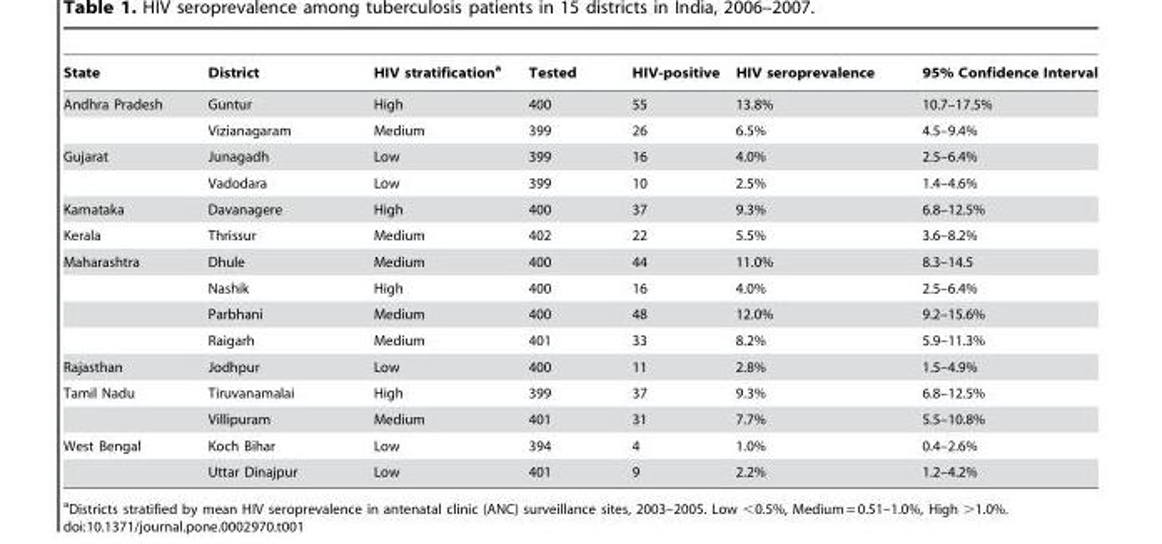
<table><thead><tr><td>State</td><td>District</td><td>HIV stratification<sup>a</sup></td><td>Tested</td><td>HIV-positive</td><td>HIV seroprevalence</td><td>95% Confidence Interval</td></tr></thead><tbody><tr><td rowspan="2">Andhra Pradesh</td><td>Guntur</td><td>High</td><td>400</td><td>55</td><td>13.8%</td><td>10.7–17.5%</td></tr><tr><td>Vizianagaram</td><td>Medium</td><td>399</td><td>26</td><td>6.5%</td><td>4.5–9.4%</td></tr><tr><td rowspan="2">Gujarat</td><td>Junagadh</td><td>Low</td><td>399</td><td>16</td><td>4.0%</td><td>2.5–6.4%</td></tr><tr><td>Vadodara</td><td>Low</td><td>399</td><td>10</td><td>2.5%</td><td>1.4–4.6%</td></tr><tr><td>Karnataka</td><td>Davanagere</td><td>High</td><td>400</td><td>37</td><td>9.3%</td><td>6.8–12.5%</td></tr><tr><td>Kerala</td><td>Thrissur</td><td>Medium</td><td>402</td><td>22</td><td>5.5%</td><td>3.6–8.2%</td></tr><tr><td rowspan="4">Maharashtra</td><td>Dhule</td><td>Medium</td><td>400</td><td>44</td><td>11.0%</td><td>8.3–14.5</td></tr><tr><td>Nashik</td><td>High</td><td>400</td><td>16</td><td>4.0%</td><td>2.5–6.4%</td></tr><tr><td>Parbhani</td><td>Medium</td><td>400</td><td>48</td><td>12.0%</td><td>9.2–15.6%</td></tr><tr><td>Raigarh</td><td>Medium</td><td>401</td><td>33</td><td>8.2%</td><td>5.9–11.3%</td></tr><tr><td>Rajasthan</td><td>Jodhpur</td><td>Low</td><td>400</td><td>11</td><td>2.8%</td><td>1.5–4.9%</td></tr><tr><td rowspan="2">Tamil Nadu</td><td>Tiruvanamalai</td><td>High</td><td>399</td><td>37</td><td>9.3%</td><td>6.8–12.5%</td></tr><tr><td>Villipuram</td><td>Medium</td><td>401</td><td>31</td><td>7.7%</td><td>5.5–10.8%</td></tr><tr><td rowspan="2">West Bengal</td><td>Koch Bihar</td><td>Low</td><td>394</td><td>4</td><td>1.0%</td><td>0.4–2.6%</td></tr><tr><td>Uttar Dinajpur</td><td>Low</td><td>401</td><td>9</td><td>2.2%</td><td>1.2–4.2%</td></tr></tbody></table>